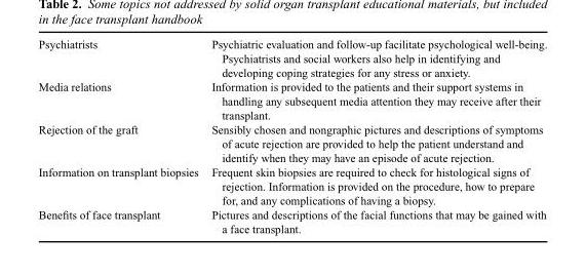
<table><tbody><tr><td>Psychiatrists</td><td>Psychiatric evaluation and follow-up facilitate psychological well-being. Psychiatrists and social workers also help in identifying and developing coping strategies for any stress or anxiety.</td></tr><tr><td>Media relations</td><td>Information is provided to the patients and their support systems in handling any subsequent media attention they may receive after their transplant.</td></tr><tr><td>Rejection of the graft</td><td>Sensibly chosen and nongraphic pictures and descriptions of symptoms of acute rejection are provided to help the patient understand and identify when they may have an episode of acute rejection.</td></tr><tr><td>Information on transplant biopsies</td><td>Frequent skin biopsies are required to check for histological signs of rejection. Information is provided on the procedure, how to prepare for, and any complications of having a biopsy.</td></tr><tr><td>Benefits of face transplant</td><td>Pictures and descriptions of the facial functions that may be gained with a face transplant.</td></tr></tbody></table>